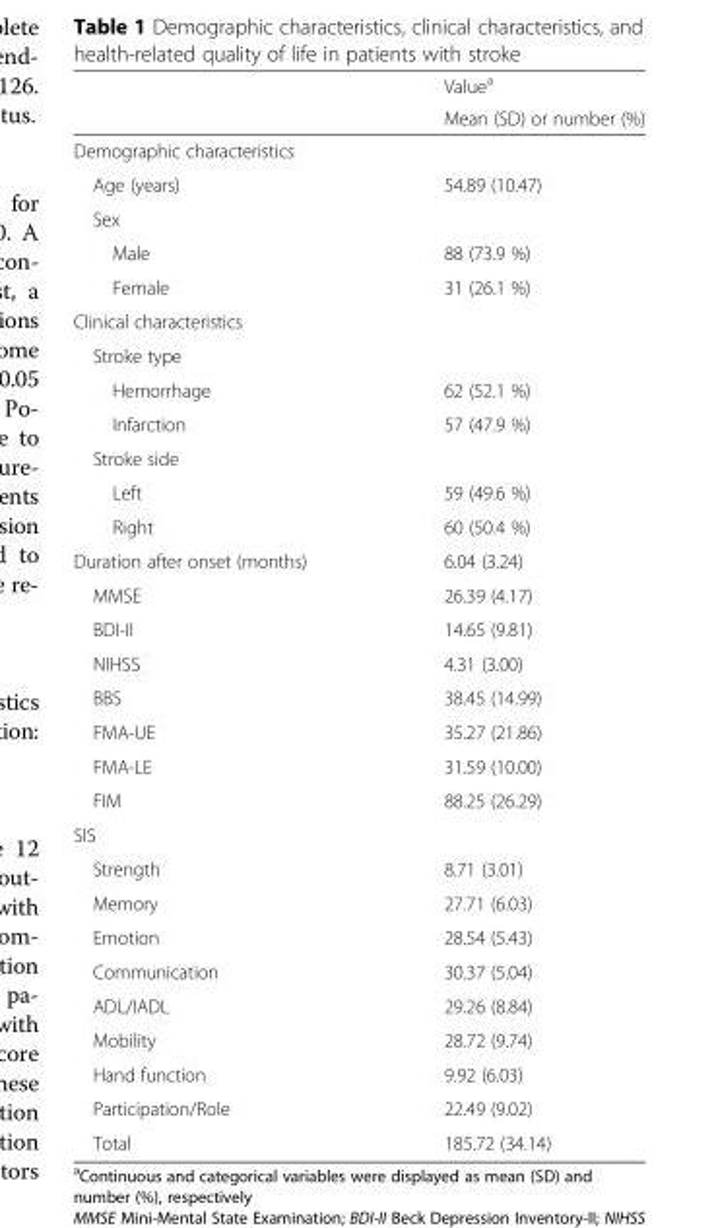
<table><thead><tr><td rowspan="2"></td><td rowspan="2">Value<sup>a</sup> Mean (SD) or number (%)</td></tr><tr></tr></thead><tbody><tr><td colspan="2">Demographic characteristics</td></tr><tr><td>Age (years)</td><td>54.89 (10.47)</td></tr><tr><td colspan="2">Sex</td></tr><tr><td>Male</td><td>88 (73.9 %)</td></tr><tr><td>Female</td><td>31 (26.1 %)</td></tr><tr><td colspan="2">Clinical characteristics</td></tr><tr><td colspan="2">Stroke type</td></tr><tr><td>Hemorrhage</td><td>62 (52.1 %)</td></tr><tr><td>Infarction</td><td>57 (47.9 %)</td></tr><tr><td colspan="2">Stroke side</td></tr><tr><td>Left</td><td>59 (49.6 %)</td></tr><tr><td>Right</td><td>60 (50.4 %)</td></tr><tr><td>Duration after onset (months)</td><td>6.04 (3.24)</td></tr><tr><td>MMSE</td><td>26.39 (4.17)</td></tr><tr><td>BDI-II</td><td>14.65 (9.81)</td></tr><tr><td>NIHSS</td><td>4.31 (3.00)</td></tr><tr><td>BBS</td><td>38.45 (14.99)</td></tr><tr><td>FMA-UE</td><td>35.27 (21.86)</td></tr><tr><td>FMA-LE</td><td>31.59 (10.00)</td></tr><tr><td>FIM</td><td>88.25 (26.29)</td></tr><tr><td colspan="2">SIS</td></tr><tr><td>Strength</td><td>8.71 (3.01)</td></tr><tr><td>Memory</td><td>27.71 (6.03)</td></tr><tr><td>Emotion</td><td>28.54 (5.43)</td></tr><tr><td>Communication</td><td>30.37 (5.04)</td></tr><tr><td>ADL/IADL</td><td>29.26 (8.84)</td></tr><tr><td>Mobility</td><td>28.72 (9.74)</td></tr><tr><td>Hand function</td><td>9.92 (6.03)</td></tr><tr><td>Participation/Role</td><td>22.49 (9.02)</td></tr><tr><td>Total</td><td>185.72 (34.14)</td></tr></tbody></table>